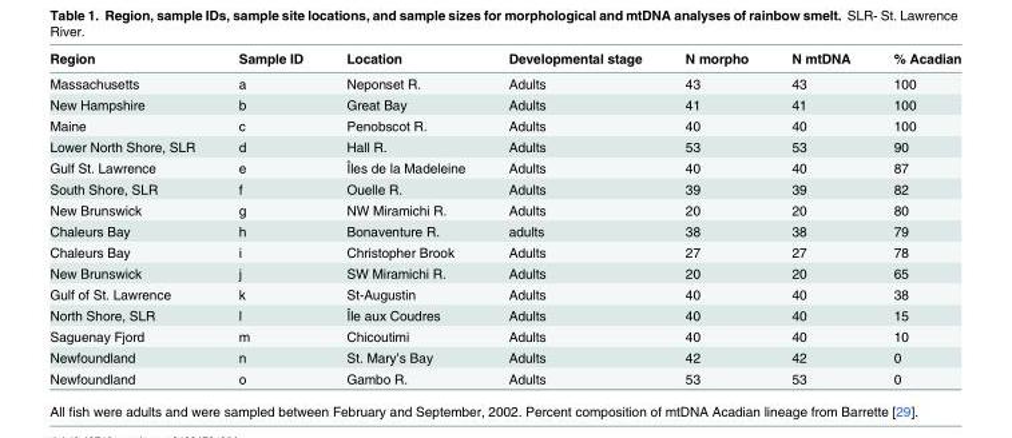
<table><thead><tr><td>Region</td><td>Sample ID</td><td>Location</td><td>Developmental stage</td><td>N morpho</td><td>N mtDNA</td><td>% Acadian</td></tr></thead><tbody><tr><td>Massachusetts</td><td>a</td><td>Neponset R.</td><td>Adults</td><td>43</td><td>43</td><td>100</td></tr><tr><td>New Hampshire</td><td>b</td><td>Great Bay</td><td>Adults</td><td>41</td><td>41</td><td>100</td></tr><tr><td>Maine</td><td>c</td><td>Penobscot R.</td><td>Adults</td><td>40</td><td>40</td><td>100</td></tr><tr><td>Lower North Shore, SLR</td><td>d</td><td>Hall R.</td><td>Adults</td><td>53</td><td>53</td><td>90</td></tr><tr><td>Gulf St. Lawrence</td><td>e</td><td>Îles de la Madeleine</td><td>Adults</td><td>40</td><td>40</td><td>87</td></tr><tr><td>South Shore, SLR</td><td>f</td><td>Ouelle R.</td><td>Adults</td><td>39</td><td>39</td><td>82</td></tr><tr><td>New Brunswick</td><td>g</td><td>NW Miramichi R.</td><td>Adults</td><td>20</td><td>20</td><td>80</td></tr><tr><td>Chaleurs Bay</td><td>h</td><td>Bonaventure R.</td><td>adults</td><td>38</td><td>38</td><td>79</td></tr><tr><td>Chaleurs Bay</td><td>i</td><td>Christopher Brook</td><td>Adults</td><td>27</td><td>27</td><td>78</td></tr><tr><td>New Brunswick</td><td>j</td><td>SW Miramichi R.</td><td>Adults</td><td>20</td><td>20</td><td>65</td></tr><tr><td>Gulf of St. Lawrence</td><td>k</td><td>St-Augustin</td><td>Adults</td><td>40</td><td>40</td><td>38</td></tr><tr><td>North Shore, SLR</td><td>l</td><td>Île aux Coudres</td><td>Adults</td><td>40</td><td>40</td><td>15</td></tr><tr><td>Saguenay Fjord</td><td>m</td><td>Chicoutimi</td><td>Adults</td><td>40</td><td>40</td><td>10</td></tr><tr><td>Newfoundland</td><td>n</td><td>St. Mary’s Bay</td><td>Adults</td><td>42</td><td>42</td><td>0</td></tr><tr><td>Newfoundland</td><td>o</td><td>Gambo R.</td><td>Adults</td><td>53</td><td>53</td><td>0</td></tr></tbody></table>